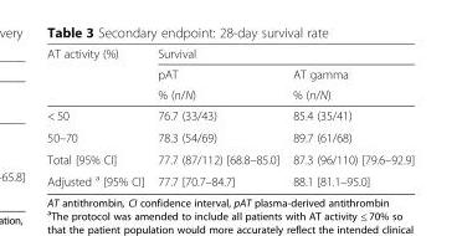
<table><thead><tr><td rowspan="3">AT activity (%)</td><td colspan="2">Survival</td></tr><tr><td rowspan="2">pAT % (n/N)</td><td rowspan="2">AT gamma % (n/N)</td></tr><tr></tr></thead><tbody><tr><td>&lt; 50</td><td>76.7 (33/43)</td><td>85.4 (35/41)</td></tr><tr><td>50–70</td><td>78.3 (54/69)</td><td>89.7 (61/68)</td></tr><tr><td>Total [95% CI]</td><td>77.7 (87/112) [68.8–85.0]</td><td>87.3 (96/110) [79.6–92.9]</td></tr><tr><td>Adjusted <sup>a</sup> [95% CI]</td><td>77.7 [70.7–84.7]</td><td>88.1 [81.1–95.0]</td></tr></tbody></table>